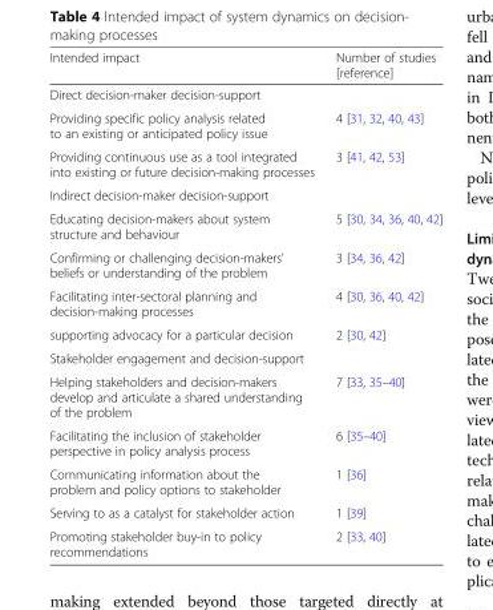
<table><thead><tr><td>Intended impact</td><td>Number of studies [reference]</td></tr></thead><tbody><tr><td colspan="2">Direct decision-maker decision-support</td></tr><tr><td>Providing specific policy analysis related to an existing or anticipated policy issue</td><td>4 [31, 32, 40, 43]</td></tr><tr><td>Providing continuous use as a tool integrated into existing or future decision-making processes</td><td>3 [41, 42, 53]</td></tr><tr><td colspan="2">Indirect decision-maker decision-support</td></tr><tr><td>Educating decision-makers about system structure and behaviour</td><td>5 [30, 34, 36, 40, 42]</td></tr><tr><td>Confirming or challenging decision-makers’ beliefs or understanding of the problem</td><td>3 [34, 36, 42]</td></tr><tr><td>Facilitating inter-sectoral planning and decision-making processes</td><td>4 [30, 36, 40, 42]</td></tr><tr><td>supporting advocacy for a particular decision</td><td>2 [30, 42]</td></tr><tr><td colspan="2">Stakeholder engagement and decision-support</td></tr><tr><td>Helping stakeholders and decision-makers develop and articulate a shared understanding of the problem</td><td>7 [33, 35–40]</td></tr><tr><td>Facilitating the inclusion of stakeholder perspective in policy analysis process</td><td>6 [35–40]</td></tr><tr><td>Communicating information about the problem and policy options to stakeholder</td><td>1 [36]</td></tr><tr><td>Serving to as a catalyst for stakeholder action</td><td>1 [39]</td></tr><tr><td>Promoting stakeholder buy-in to policy recommendations</td><td>2 [33, 40]</td></tr></tbody></table>